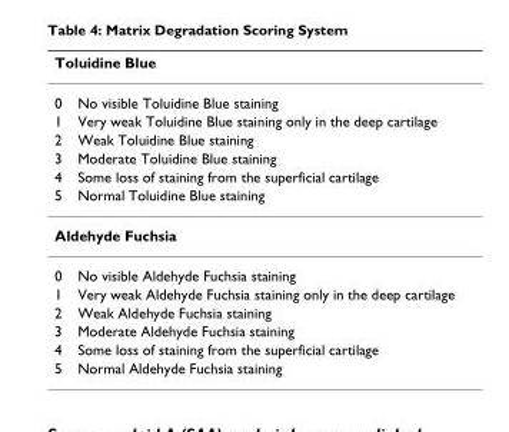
<table><thead><tr><td colspan="2">Toluidine Blue</td></tr><tr><td>0</td><td>No visible Toluidine Blue staining</td></tr></thead><tbody><tr><td>1</td><td>Very weak Toluidine Blue staining only in the deep cartilage</td></tr><tr><td>2</td><td>Weak Toluidine Blue staining</td></tr><tr><td>3</td><td>Moderate Toluidine Blue staining</td></tr><tr><td>4</td><td>Some loss of staining from the superficial cartilage</td></tr><tr><td>5</td><td>Normal Toluidine Blue staining</td></tr><tr><td colspan="2">Aldehyde Fuchsia</td></tr><tr><td>0</td><td>No visible Aldehyde Fuchsia staining</td></tr><tr><td>1</td><td>Very weak Aldehyde Fuchsia staining only in the deep cartilage</td></tr><tr><td>2</td><td>Weak Aldehyde Fuchsia staining</td></tr><tr><td>3</td><td>Moderate Aldehyde Fuchsia staining</td></tr><tr><td>4</td><td>Some loss of staining from the superficial cartilage</td></tr><tr><td>5</td><td>Normal Aldehyde Fuchsia staining</td></tr></tbody></table>